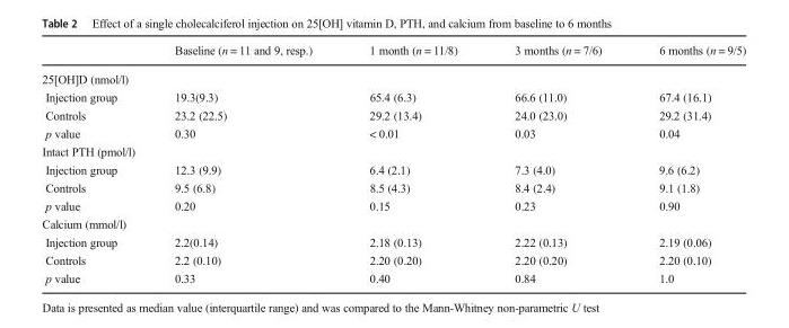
<table><thead><tr><td></td><td>Baseline (n = 11 and 9, resp.)</td><td>1 month (n = 11/8)</td><td>3 months (n = 7/6)</td><td>6 months (n = 9/5)</td></tr></thead><tbody><tr><td colspan="5">25[OH]D (nmol/l)</td></tr><tr><td>Injection group</td><td>19.3(9.3)</td><td>65.4 (6.3)</td><td>66.6 (11.0)</td><td>67.4 (16.1)</td></tr><tr><td>Controls</td><td>23.2 (22.5)</td><td>29.2 (13.4)</td><td>24.0 (23.0)</td><td>29.2 (31.4)</td></tr><tr><td>p value</td><td>0.30</td><td>&lt; 0.01</td><td>0.03</td><td>0.04</td></tr><tr><td colspan="5">Intact PTH (pmol/l)</td></tr><tr><td>Injection group</td><td>12.3 (9.9)</td><td>6.4 (2.1)</td><td>7.3 (4.0)</td><td>9.6 (6.2)</td></tr><tr><td>Controls</td><td>9.5 (6.8)</td><td>8.5 (4.3)</td><td>8.4 (2.4)</td><td>9.1 (1.8)</td></tr><tr><td>p value</td><td>0.20</td><td>0.15</td><td>0.23</td><td>0.90</td></tr><tr><td colspan="5">Calcium (mmol/l)</td></tr><tr><td>Injection group</td><td>2.2(0.14)</td><td>2.18 (0.13)</td><td>2.22 (0.13)</td><td>2.19 (0.06)</td></tr><tr><td>Controls</td><td>2.2 (0.10)</td><td>2.20 (0.20)</td><td>2.20 (0.20)</td><td>2.20 (0.10)</td></tr><tr><td>p value</td><td>0.33</td><td>0.40</td><td>0.84</td><td>1.0</td></tr></tbody></table>